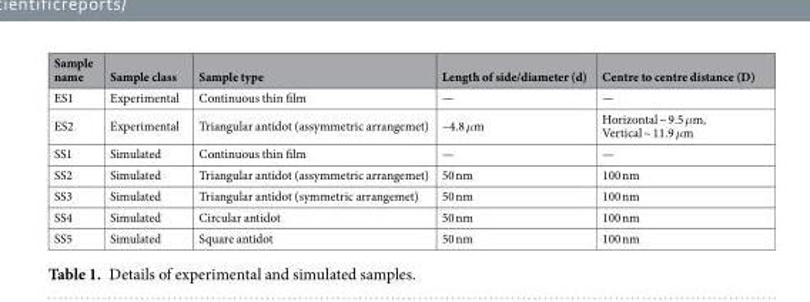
<table><thead><tr><td>Sample name</td><td>Sample class</td><td>Sample type</td><td>Length of side/diameter (d)</td><td>Centre to centre distance (D)</td></tr></thead><tbody><tr><td>ES1</td><td>Experimental</td><td>Continuous thin film</td><td>—</td><td>—</td></tr><tr><td>ES2</td><td>Experimental</td><td>Triangular antidot (assymmetric arrangemet)</td><td>~4.8 μm</td><td>Horizontal ~ 9.5 μm, Vertical ~ 11.9 μm</td></tr><tr><td>SS1</td><td>Simulated</td><td>Continuous thin film</td><td>—</td><td>—</td></tr><tr><td>SS2</td><td>Simulated</td><td>Triangular antidot (assymmetric arrangemet)</td><td>50 nm</td><td>100 nm</td></tr><tr><td>SS3</td><td>Simulated</td><td>Triangular antidot (symmetric arrangemet)</td><td>50 nm</td><td>100 nm</td></tr><tr><td>SS4</td><td>Simulated</td><td>Circular antidot</td><td>50 nm</td><td>100 nm</td></tr><tr><td>SS5</td><td>Simulated</td><td>Square antidot</td><td>50 nm</td><td>100 nm</td></tr></tbody></table>